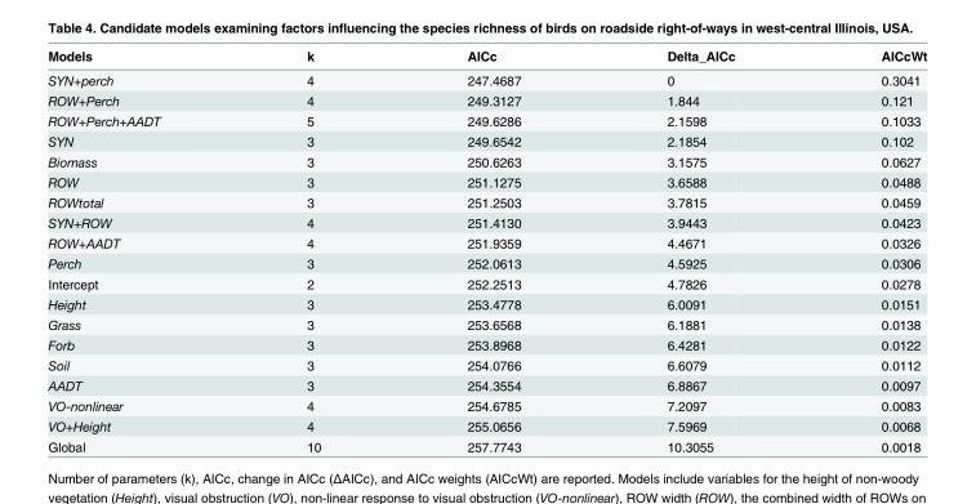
<table><thead><tr><td>Models</td><td>k</td><td>AICc</td><td>Delta_AICc</td><td>AICcWt</td></tr></thead><tbody><tr><td>SYN+perch</td><td>4</td><td>247.4687</td><td>0</td><td>0.3041</td></tr><tr><td>ROW+Perch</td><td>4</td><td>249.3127</td><td>1.844</td><td>0.121</td></tr><tr><td>ROW+Perch+AADT</td><td>5</td><td>249.6286</td><td>2.1598</td><td>0.1033</td></tr><tr><td>SYN</td><td>3</td><td>249.6542</td><td>2.1854</td><td>0.102</td></tr><tr><td>Biomass</td><td>3</td><td>250.6263</td><td>3.1575</td><td>0.0627</td></tr><tr><td>ROW</td><td>3</td><td>251.1275</td><td>3.6588</td><td>0.0488</td></tr><tr><td>ROWtotal</td><td>3</td><td>251.2503</td><td>3.7815</td><td>0.0459</td></tr><tr><td>SYN+ROW</td><td>4</td><td>251.4130</td><td>3.9443</td><td>0.0423</td></tr><tr><td>ROW+AADT</td><td>4</td><td>251.9359</td><td>4.4671</td><td>0.0326</td></tr><tr><td>Perch</td><td>3</td><td>252.0613</td><td>4.5925</td><td>0.0306</td></tr><tr><td>Intercept</td><td>2</td><td>252.2513</td><td>4.7826</td><td>0.0278</td></tr><tr><td>Height</td><td>3</td><td>253.4778</td><td>6.0091</td><td>0.0151</td></tr><tr><td>Grass</td><td>3</td><td>253.6568</td><td>6.1881</td><td>0.0138</td></tr><tr><td>Forb</td><td>3</td><td>253.8968</td><td>6.4281</td><td>0.0122</td></tr><tr><td>Soil</td><td>3</td><td>254.0766</td><td>6.6079</td><td>0.0112</td></tr><tr><td>AADT</td><td>3</td><td>254.3554</td><td>6.8867</td><td>0.0097</td></tr><tr><td>VO-nonlinear</td><td>4</td><td>254.6785</td><td>7.2097</td><td>0.0083</td></tr><tr><td>VO+Height</td><td>4</td><td>255.0656</td><td>7.5969</td><td>0.0068</td></tr><tr><td>Global</td><td>10</td><td>257.7743</td><td>10.3055</td><td>0.0018</td></tr></tbody></table>